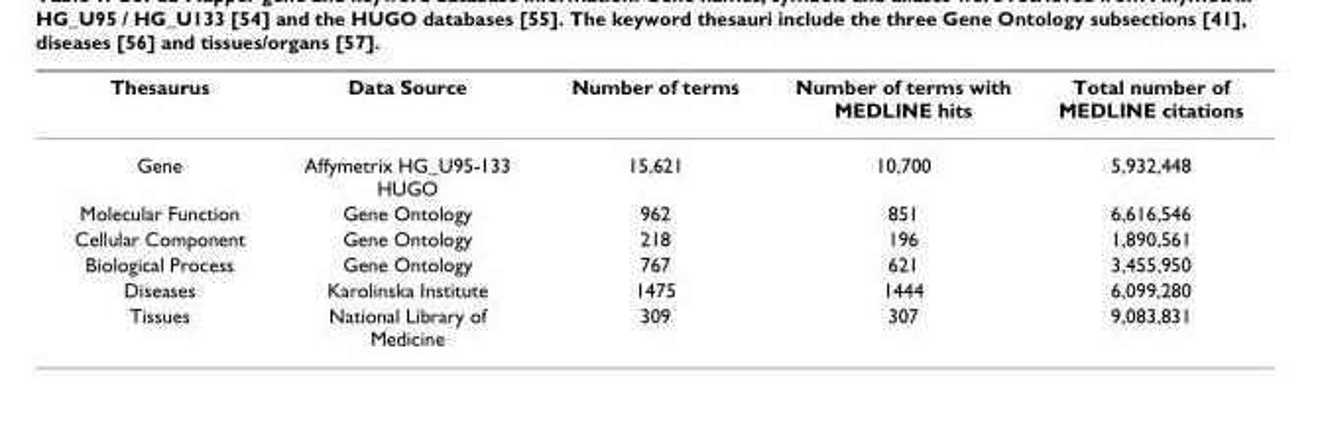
<table><thead><tr><td>Thesaurus</td><td>Data Source</td><td>Number of terms</td><td>Number of terms with MEDLINE hits</td><td>Total number of MEDLINE citations</td></tr></thead><tbody><tr><td>Gene</td><td>Affymetrix HG_U95-133 HUGO</td><td>15,621</td><td>10,700</td><td>5,932,448</td></tr><tr><td>Molecular Function</td><td>Gene Ontology</td><td>962</td><td>851</td><td>6,616,546</td></tr><tr><td>Cellular Component</td><td>Gene Ontology</td><td>218</td><td>196</td><td>1,890,561</td></tr><tr><td>Biological Process</td><td>Gene Ontology</td><td>767</td><td>621</td><td>3,455,950</td></tr><tr><td>Diseases</td><td>Karolinska Institute</td><td>1475</td><td>1444</td><td>6,099,280</td></tr><tr><td>Tissues</td><td>National Library of Medicine</td><td>309</td><td>307</td><td>9,083,831</td></tr></tbody></table>